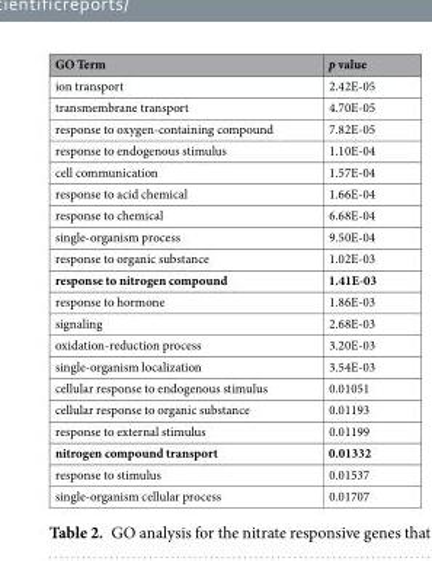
<table><thead><tr><td>GO Term</td><td>p value</td></tr></thead><tbody><tr><td>ion transport</td><td>2.42E-05</td></tr><tr><td>transmembrane transport</td><td>4.70E-05</td></tr><tr><td>response to oxygen-containing compound</td><td>7.82E-05</td></tr><tr><td>response to endogenous stimulus</td><td>1.10E-04</td></tr><tr><td>cell communication</td><td>1.57E-04</td></tr><tr><td>response to acid chemical</td><td>1.66E-04</td></tr><tr><td>response to chemical</td><td>6.68E-04</td></tr><tr><td>single-organism process</td><td>9.50E-04</td></tr><tr><td>response to organic substance</td><td>1.02E-03</td></tr><tr><td>response to nitrogen compound</td><td>1.41E-03</td></tr><tr><td>response to hormone</td><td>1.86E-03</td></tr><tr><td>signaling</td><td>2.68E-03</td></tr><tr><td>oxidation-reduction process</td><td>3.20E-03</td></tr><tr><td>single-organism localization</td><td>3.54E-03</td></tr><tr><td>cellular response to endogenous stimulus</td><td>0.01051</td></tr><tr><td>cellular response to organic substance</td><td>0.01193</td></tr><tr><td>response to external stimulus</td><td>0.01199</td></tr><tr><td>nitrogen compound transport</td><td>0.01332</td></tr><tr><td>response to stimulus</td><td>0.01537</td></tr><tr><td>single-organism cellular process</td><td>0.01707</td></tr></tbody></table>